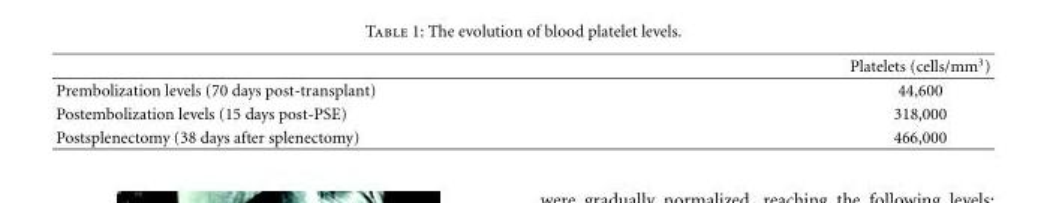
<table><thead><tr><td></td><td>Platelets (cells/mm<sup>3</sup>)</td></tr></thead><tbody><tr><td>Prembolization levels (70 days post-transplant)</td><td>44,600</td></tr><tr><td>Postembolization levels (15 days post-PSE)</td><td>318,000</td></tr><tr><td>Postsplenectomy (38 days after splenectomy)</td><td>466,000</td></tr></tbody></table>